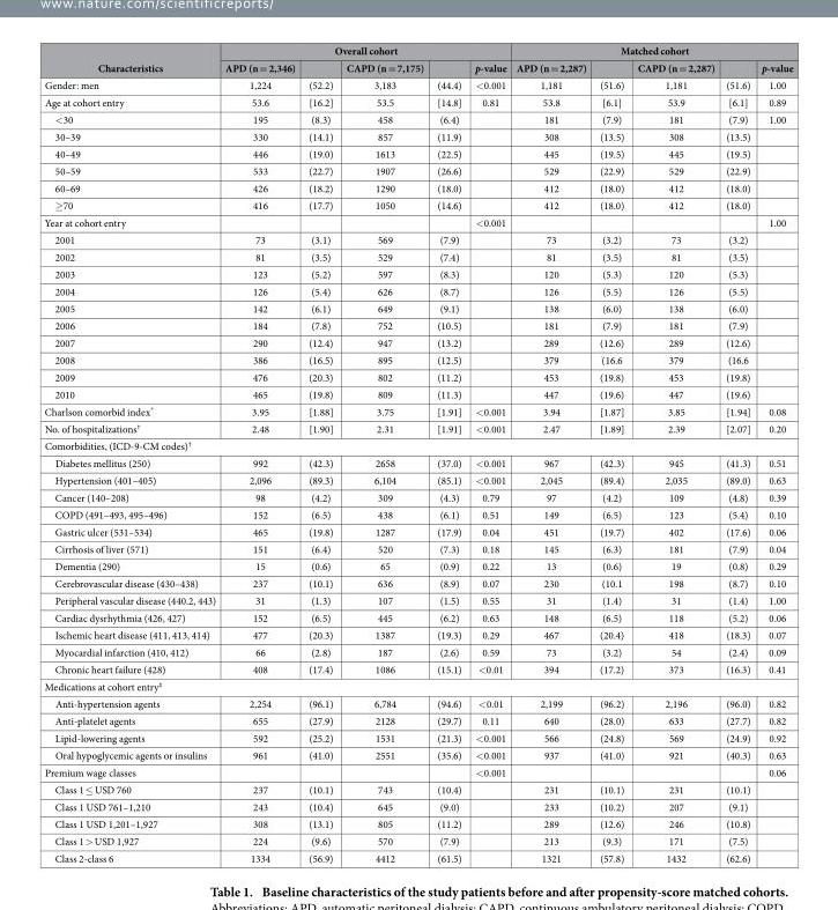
<table><thead><tr><td rowspan="2">Characteristics</td><td colspan="5">Overall cohort</td><td colspan="5">Matched cohort</td></tr><tr><td>APD (n = 2,346)</td><td></td><td>CAPD (n = 7,175)</td><td></td><td>p-value</td><td>APD (n = 2,287)</td><td></td><td>CAPD (n = 2,287)</td><td></td><td>p-value</td></tr></thead><tbody><tr><td>Gender: men</td><td>1,224</td><td>(52.2)</td><td>3,183</td><td>(44.4)</td><td>&lt; 0.001</td><td>1,181</td><td>(51.6)</td><td>1,181</td><td>(51.6)</td><td>1.00</td></tr><tr><td>Age at cohort entry</td><td>53.6</td><td>[16.2]</td><td>53.5</td><td>[14.8]</td><td>0.81</td><td>53.8</td><td>[6.1]</td><td>53.9</td><td>[6.1]</td><td>0.89</td></tr><tr><td>&lt; 30</td><td>195</td><td>(8.3)</td><td>458</td><td>(6.4)</td><td></td><td>181</td><td>(7.9)</td><td>181</td><td>(7.9)</td><td>1.00</td></tr><tr><td>30–39</td><td>330</td><td>(14.1)</td><td>857</td><td>(11.9)</td><td></td><td>308</td><td>(13.5)</td><td>308</td><td>(13.5)</td><td></td></tr><tr><td>40–49</td><td>446</td><td>(19.0)</td><td>1613</td><td>(22.5)</td><td></td><td>445</td><td>(19.5)</td><td>445</td><td>(19.5)</td><td></td></tr><tr><td>50–59</td><td>533</td><td>(22.7)</td><td>1907</td><td>(26.6)</td><td></td><td>529</td><td>(22.9)</td><td>529</td><td>(22.9)</td><td></td></tr><tr><td>60–69</td><td>426</td><td>(18.2)</td><td>1290</td><td>(18.0)</td><td></td><td>412</td><td>(18.0)</td><td>412</td><td>(18.0)</td><td></td></tr><tr><td>≥ 70</td><td>416</td><td>(17.7)</td><td>1050</td><td>(14.6)</td><td></td><td>412</td><td>(18.0)</td><td>412</td><td>(18.0)</td><td></td></tr><tr><td>Year at cohort entry</td><td></td><td></td><td></td><td></td><td>&lt; 0.001</td><td></td><td></td><td></td><td></td><td>1.00</td></tr><tr><td>2001</td><td>73</td><td>(3.1)</td><td>569</td><td>(7.9)</td><td></td><td>73</td><td>(3.2)</td><td>73</td><td>(3.2)</td><td></td></tr><tr><td>2002</td><td>81</td><td>(3.5)</td><td>529</td><td>(7.4)</td><td></td><td>81</td><td>(3.5)</td><td>81</td><td>(3.5)</td><td></td></tr><tr><td>2003</td><td>123</td><td>(5.2)</td><td>597</td><td>(8.3)</td><td></td><td>120</td><td>(5.3)</td><td>120</td><td>(5.3)</td><td></td></tr><tr><td>2004</td><td>126</td><td>(5.4)</td><td>626</td><td>(8.7)</td><td></td><td>126</td><td>(5.5)</td><td>126</td><td>(5.5)</td><td></td></tr><tr><td>2005</td><td>142</td><td>(6.1)</td><td>649</td><td>(9.1)</td><td></td><td>138</td><td>(6.0)</td><td>138</td><td>(6.0)</td><td></td></tr><tr><td>2006</td><td>184</td><td>(7.8)</td><td>752</td><td>(10.5)</td><td></td><td>181</td><td>(7.9)</td><td>181</td><td>(7.9)</td><td></td></tr><tr><td>2007</td><td>290</td><td>(12.4)</td><td>947</td><td>(13.2)</td><td></td><td>289</td><td>(12.6)</td><td>289</td><td>(12.6)</td><td></td></tr><tr><td>2008</td><td>386</td><td>(16.5)</td><td>895</td><td>(12.5)</td><td></td><td>379</td><td>(16.6</td><td>379</td><td>(16.6</td><td></td></tr><tr><td>2009</td><td>476</td><td>(20.3)</td><td>802</td><td>(11.2)</td><td></td><td>453</td><td>(19.8)</td><td>453</td><td>(19.8)</td><td></td></tr><tr><td>2010</td><td>465</td><td>(19.8)</td><td>809</td><td>(11.3)</td><td></td><td>447</td><td>(19.6)</td><td>447</td><td>(19.6)</td><td></td></tr><tr><td>Charlson comorbid index*</td><td>3.95</td><td>[1.88]</td><td>3.75</td><td>[1.91]</td><td>&lt; 0.001</td><td>3.94</td><td>[1.87]</td><td>3.85</td><td>[1.94]</td><td>0.08</td></tr><tr><td>No. of hospitalizations†</td><td>2.48</td><td>[1.90]</td><td>2.31</td><td>[1.91]</td><td>&lt; 0.001</td><td>2.47</td><td>[1.89]</td><td>2.39</td><td>[2.07]</td><td>0.20</td></tr><tr><td colspan="11">Comorbidities, (ICD-9-CM codes)†</td></tr><tr><td>Diabetes mellitus (250)</td><td>992</td><td>(42.3)</td><td>2658</td><td>(37.0)</td><td>&lt; 0.001</td><td>967</td><td>(42.3)</td><td>945</td><td>(41.3)</td><td>0.51</td></tr><tr><td>Hypertension (401–405)</td><td>2,096</td><td>(89.3)</td><td>6,104</td><td>(85.1)</td><td>&lt; 0.001</td><td>2,045</td><td>(89.4)</td><td>2,035</td><td>(89.0)</td><td>0.63</td></tr><tr><td>Cancer (140–208)</td><td>98</td><td>(4.2)</td><td>309</td><td>(4.3)</td><td>0.79</td><td>97</td><td>(4.2)</td><td>109</td><td>(4.8)</td><td>0.39</td></tr><tr><td>COPD (491–493, 495–496)</td><td>152</td><td>(6.5)</td><td>438</td><td>(6.1)</td><td>0.51</td><td>149</td><td>(6.5)</td><td>123</td><td>(5.4)</td><td>0.10</td></tr><tr><td>Gastric ulcer (531–534)</td><td>465</td><td>(19.8)</td><td>1287</td><td>(17.9)</td><td>0.04</td><td>451</td><td>(19.7)</td><td>402</td><td>(17.6)</td><td>0.06</td></tr><tr><td>Cirrhosis of liver (571)</td><td>151</td><td>(6.4)</td><td>520</td><td>(7.3)</td><td>0.18</td><td>145</td><td>(6.3)</td><td>181</td><td>(7.9)</td><td>0.04</td></tr><tr><td>Dementia (290)</td><td>15</td><td>(0.6)</td><td>65</td><td>(0.9)</td><td>0.22</td><td>13</td><td>(0.6)</td><td>19</td><td>(0.8)</td><td>0.29</td></tr><tr><td>Cerebrovascular disease (430–438)</td><td>237</td><td>(10.1)</td><td>636</td><td>(8.9)</td><td>0.07</td><td>230</td><td>(10.1</td><td>198</td><td>(8.7)</td><td>0.10</td></tr><tr><td>Peripheral vascular disease (440.2, 443)</td><td>31</td><td>(1.3)</td><td>107</td><td>(1.5)</td><td>0.55</td><td>31</td><td>(1.4)</td><td>31</td><td>(1.4)</td><td>1.00</td></tr><tr><td>Cardiac dysrhythmia (426, 427)</td><td>152</td><td>(6.5)</td><td>445</td><td>(6.2)</td><td>0.63</td><td>148</td><td>(6.5)</td><td>118</td><td>(5.2)</td><td>0.06</td></tr><tr><td>Ischemic heart disease (411, 413, 414)</td><td>477</td><td>(20.3)</td><td>1387</td><td>(19.3)</td><td>0.29</td><td>467</td><td>(20.4)</td><td>418</td><td>(18.3)</td><td>0.07</td></tr><tr><td>Myocardial infarction (410, 412)</td><td>66</td><td>(2.8)</td><td>187</td><td>(2.6)</td><td>0.59</td><td>73</td><td>(3.2)</td><td>54</td><td>(2.4)</td><td>0.09</td></tr><tr><td>Chronic heart failure (428)</td><td>408</td><td>(17.4)</td><td>1086</td><td>(15.1)</td><td>&lt; 0.01</td><td>394</td><td>(17.2)</td><td>373</td><td>(16.3)</td><td>0.41</td></tr><tr><td colspan="11">Medications at cohort entry‡</td></tr><tr><td>Anti-hypertension agents</td><td>2,254</td><td>(96.1)</td><td>6,784</td><td>(94.6)</td><td>&lt; 0.01</td><td>2,199</td><td>(96.2)</td><td>2,196</td><td>(96.0)</td><td>0.82</td></tr><tr><td>Anti-platelet agents</td><td>655</td><td>(27.9)</td><td>2128</td><td>(29.7)</td><td>0.11</td><td>640</td><td>(28.0)</td><td>633</td><td>(27.7)</td><td>0.82</td></tr><tr><td>Lipid-lowering agents</td><td>592</td><td>(25.2)</td><td>1531</td><td>(21.3)</td><td>&lt; 0.001</td><td>566</td><td>(24.8)</td><td>569</td><td>(24.9)</td><td>0.92</td></tr><tr><td>Oral hypoglycemic agents or insulins</td><td>961</td><td>(41.0)</td><td>2551</td><td>(35.6)</td><td>&lt; 0.001</td><td>937</td><td>(41.0)</td><td>921</td><td>(40.3)</td><td>0.63</td></tr><tr><td>Premium wage classes</td><td></td><td></td><td></td><td></td><td>&lt; 0.001</td><td></td><td></td><td></td><td></td><td>0.06</td></tr><tr><td>Class 1 ≤ USD 760</td><td>237</td><td>(10.1)</td><td>743</td><td>(10.4)</td><td></td><td>231</td><td>(10.1)</td><td>231</td><td>(10.1)</td><td></td></tr><tr><td>Class 1 USD 761–1,210</td><td>243</td><td>(10.4)</td><td>645</td><td>(9.0)</td><td></td><td>233</td><td>(10.2)</td><td>207</td><td>(9.1)</td><td></td></tr><tr><td>Class 1 USD 1,201–1,927</td><td>308</td><td>(13.1)</td><td>805</td><td>(11.2)</td><td></td><td>289</td><td>(12.6)</td><td>246</td><td>(10.8)</td><td></td></tr><tr><td>Class 1 &gt; USD 1,927</td><td>224</td><td>(9.6)</td><td>570</td><td>(7.9)</td><td></td><td>213</td><td>(9.3)</td><td>171</td><td>(7.5)</td><td></td></tr><tr><td>Class 2-class 6</td><td>1334</td><td>(56.9)</td><td>4412</td><td>(61.5)</td><td></td><td>1321</td><td>(57.8)</td><td>1432</td><td>(62.6)</td><td></td></tr></tbody></table>